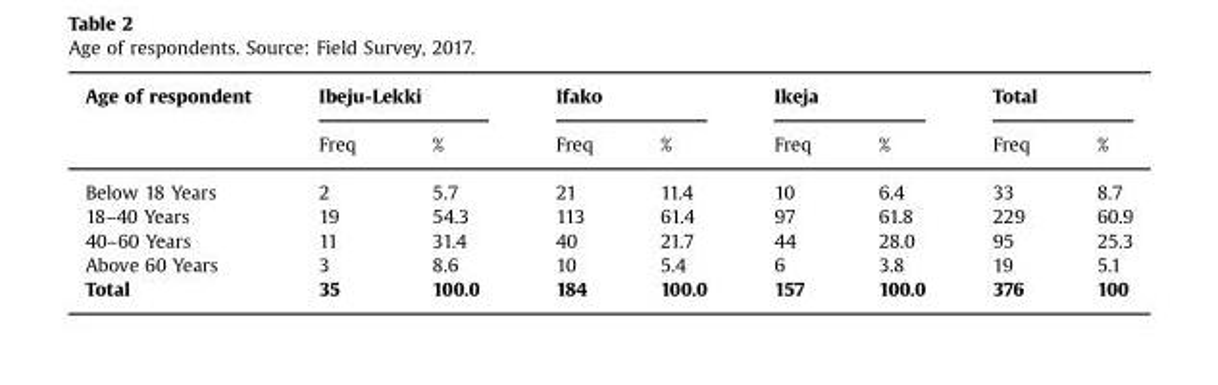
<table><thead><tr><td rowspan="2">Age of respondent</td><td colspan="2">Ibeju-Lekki</td><td colspan="2">Ifako</td><td colspan="2">Ikeja</td><td colspan="2">Total</td></tr><tr><td>Freq</td><td>%</td><td>Freq</td><td>%</td><td>Freq</td><td>%</td><td>Freq</td><td>%</td></tr></thead><tbody><tr><td>Below 18 Years</td><td>2</td><td>5.7</td><td>21</td><td>11.4</td><td>10</td><td>6.4</td><td>33</td><td>8.7</td></tr><tr><td>18–40 Years</td><td>19</td><td>54.3</td><td>113</td><td>61.4</td><td>97</td><td>61.8</td><td>229</td><td>60.9</td></tr><tr><td>40–60 Years</td><td>11</td><td>31.4</td><td>40</td><td>21.7</td><td>44</td><td>28.0</td><td>95</td><td>25.3</td></tr><tr><td>Above 60 Years</td><td>3</td><td>8.6</td><td>10</td><td>5.4</td><td>6</td><td>3.8</td><td>19</td><td>5.1</td></tr><tr><td>Total</td><td>35</td><td>100.0</td><td>184</td><td>100.0</td><td>157</td><td>100.0</td><td>376</td><td>100</td></tr></tbody></table>